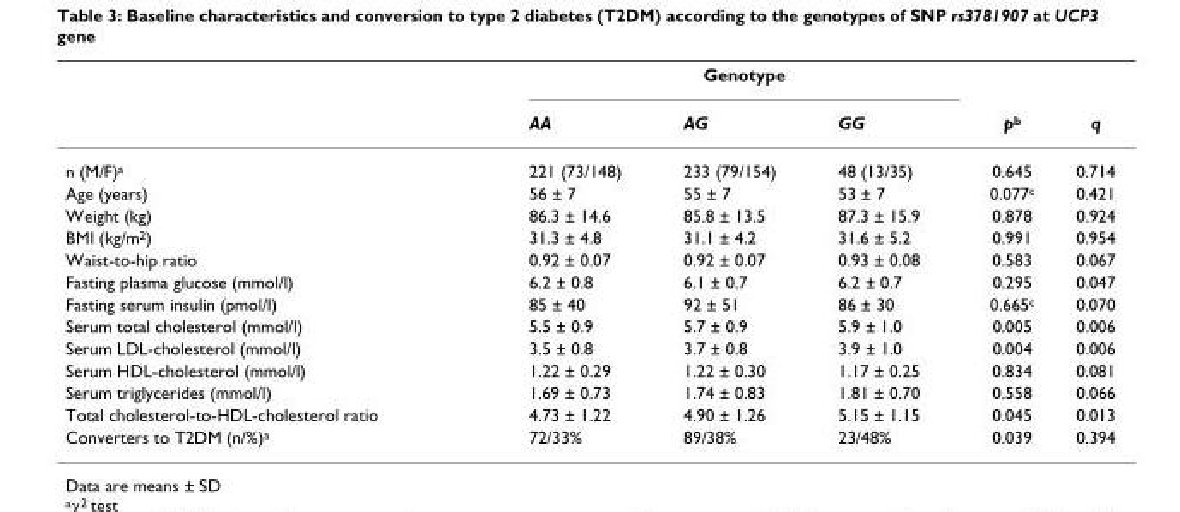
<table><thead><tr><td rowspan="2"></td><td colspan="3">Genotype</td><td rowspan="2">p<sup>b</sup></td><td rowspan="2">q</td></tr><tr><td>AA</td><td>AG</td><td>GG</td></tr></thead><tbody><tr><td>n (M/F)<sup>a</sup></td><td>221 (73/148)</td><td>233 (79/154)</td><td>48 (13/35)</td><td>0.645</td><td>0.714</td></tr><tr><td>Age (years)</td><td>56 ± 7</td><td>55 ± 7</td><td>53 ± 7</td><td>0.077<sup>c</sup></td><td>0.421</td></tr><tr><td>Weight (kg)</td><td>86.3 ± 14.6</td><td>85.8 ± 13.5</td><td>87.3 ± 15.9</td><td>0.878</td><td>0.924</td></tr><tr><td>BMI (kg/m<sup>2</sup>)</td><td>31.3 ± 4.8</td><td>31.1 ± 4.2</td><td>31.6 ± 5.2</td><td>0.991</td><td>0.954</td></tr><tr><td>Waist-to-hip ratio</td><td>0.92 ± 0.07</td><td>0.92 ± 0.07</td><td>0.93 ± 0.08</td><td>0.583</td><td>0.067</td></tr><tr><td>Fasting plasma glucose (mmol/l)</td><td>6.2 ± 0.8</td><td>6.1 ± 0.7</td><td>6.2 ± 0.7</td><td>0.295</td><td>0.047</td></tr><tr><td>Fasting serum insulin (pmol/l)</td><td>85 ± 40</td><td>92 ± 51</td><td>86 ± 30</td><td>0.665<sup>c</sup></td><td>0.070</td></tr><tr><td>Serum total cholesterol (mmol/l)</td><td>5.5 ± 0.9</td><td>5.7 ± 0.9</td><td>5.9 ± 1.0</td><td>0.005</td><td>0.006</td></tr><tr><td>Serum LDL-cholesterol (mmol/l)</td><td>3.5 ± 0.8</td><td>3.7 ± 0.8</td><td>3.9 ± 1.0</td><td>0.004</td><td>0.006</td></tr><tr><td>Serum HDL-cholesterol (mmol/l)</td><td>1.22 ± 0.29</td><td>1.22 ± 0.30</td><td>1.17 ± 0.25</td><td>0.834</td><td>0.081</td></tr><tr><td>Serum triglycerides (mmol/l)</td><td>1.69 ± 0.73</td><td>1.74 ± 0.83</td><td>1.81 ± 0.70</td><td>0.558</td><td>0.066</td></tr><tr><td>Total cholesterol-to-HDL-cholesterol ratio</td><td>4.73 ± 1.22</td><td>4.90 ± 1.26</td><td>5.15 ± 1.15</td><td>0.045</td><td>0.013</td></tr><tr><td>Converters to T2DM (n/%)<sup>a</sup></td><td>72/33%</td><td>89/38%</td><td>23/48%</td><td>0.039</td><td>0.394</td></tr></tbody></table>